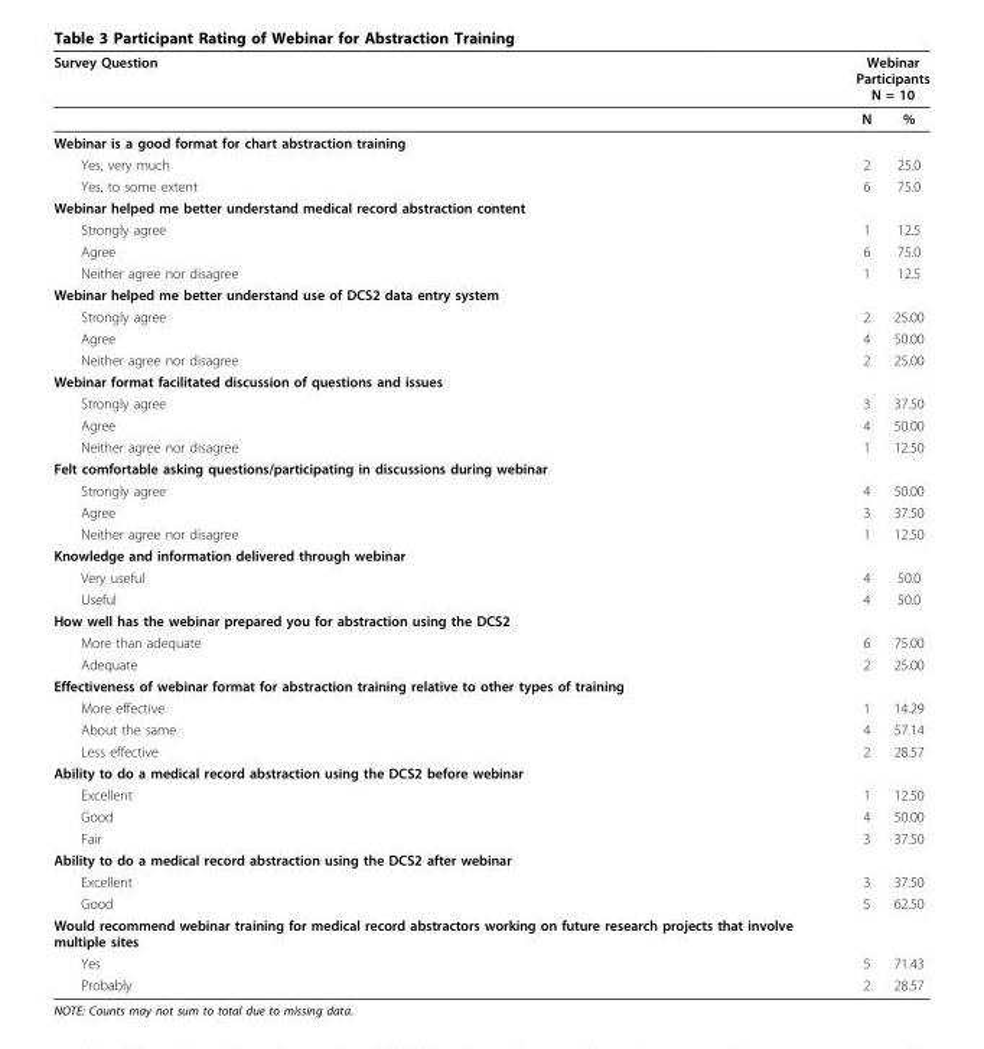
<table><thead><tr><td rowspan="2">Survey Question</td><td colspan="2">Webinar Participants N = 10</td></tr><tr><td>N</td><td>%</td></tr></thead><tbody><tr><td colspan="3">Webinar is a good format for chart abstraction training</td></tr><tr><td>Yes, very much</td><td>2</td><td>25.0</td></tr><tr><td>Yes, to some extent</td><td>6</td><td>75.0</td></tr><tr><td colspan="3">Webinar helped me better understand medical record abstraction content</td></tr><tr><td>Strongly agree</td><td>1</td><td>12.5</td></tr><tr><td>Agree</td><td>6</td><td>75.0</td></tr><tr><td>Neither agree nor disagree</td><td>1</td><td>12.5</td></tr><tr><td colspan="3">Webinar helped me better understand use of DCS2 data entry system</td></tr><tr><td>Strongly agree</td><td>2</td><td>25.00</td></tr><tr><td>Agree</td><td>4</td><td>50.00</td></tr><tr><td>Neither agree nor disagree</td><td>2</td><td>25.00</td></tr><tr><td colspan="3">Webinar format facilitated discussion of questions and issues</td></tr><tr><td>Strongly agree</td><td>3</td><td>37.50</td></tr><tr><td>Agree</td><td>4</td><td>50.00</td></tr><tr><td>Neither agree nor disagree</td><td>1</td><td>12.50</td></tr><tr><td colspan="3">Felt comfortable asking questions/participating in discussions during webinar</td></tr><tr><td>Strongly agree</td><td>4</td><td>50.00</td></tr><tr><td>Agree</td><td>3</td><td>37.50</td></tr><tr><td>Neither agree nor disagree</td><td>1</td><td>12.50</td></tr><tr><td colspan="3">Knowledge and information delivered through webinar</td></tr><tr><td>Very useful</td><td>4</td><td>50.0</td></tr><tr><td>Useful</td><td>4</td><td>50.0</td></tr><tr><td colspan="3">How well has the webinar prepared you for abstraction using the DCS2</td></tr><tr><td>More than adequate</td><td>6</td><td>75.00</td></tr><tr><td>Adequate</td><td>2</td><td>25.00</td></tr><tr><td colspan="3">Effectiveness of webinar format for abstraction training relative to other types of training</td></tr><tr><td>More effective</td><td>1</td><td>14.29</td></tr><tr><td>About the same</td><td>4</td><td>57.14</td></tr><tr><td>Less effective</td><td>2</td><td>28.57</td></tr><tr><td colspan="3">Ability to do a medical record abstraction using the DCS2 before webinar</td></tr><tr><td>Excellent</td><td>1</td><td>12.50</td></tr><tr><td>Good</td><td>4</td><td>50.00</td></tr><tr><td>Fair</td><td>3</td><td>37.50</td></tr><tr><td colspan="3">Ability to do a medical record abstraction using the DCS2 after webinar</td></tr><tr><td>Excellent</td><td>3</td><td>37.50</td></tr><tr><td>Good</td><td>5</td><td>62.50</td></tr><tr><td colspan="3">Would recommend webinar training for medical record abstractors working on future research projects that involve multiple sites</td></tr><tr><td>Yes</td><td>5</td><td>71.43</td></tr><tr><td>Probably</td><td>2</td><td>28.57</td></tr></tbody></table>